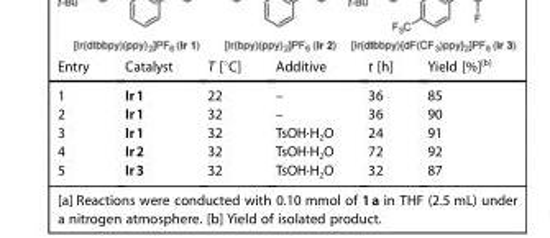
<table><thead><tr><td>Entry</td><td>Catalyst</td><td>T [°C]</td><td>Additive</td><td>t [h]</td><td>Yield [%]<sup>[b]</sup></td></tr></thead><tbody><tr><td>1</td><td>Ir1</td><td>22</td><td>–</td><td>36</td><td>85</td></tr><tr><td>2</td><td>Ir1</td><td>32</td><td>–</td><td>36</td><td>90</td></tr><tr><td>3</td><td>Ir1</td><td>32</td><td>TsOH·H2O</td><td>24</td><td>91</td></tr><tr><td>4</td><td>Ir2</td><td>32</td><td>TsOH·H2O</td><td>72</td><td>92</td></tr><tr><td>5</td><td>Ir3</td><td>32</td><td>TsOH·H2O</td><td>32</td><td>87</td></tr></tbody></table>